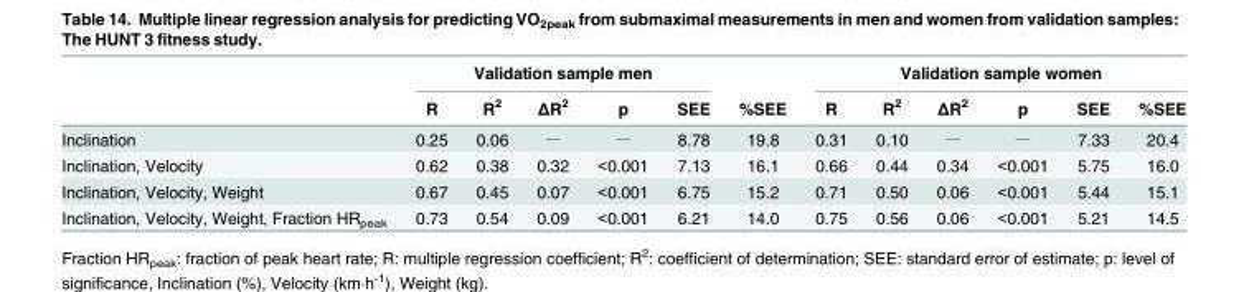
<table><thead><tr><td rowspan="2"></td><td colspan="5">Validation sample men</td><td rowspan="2">%SEE</td><td colspan="6">Validation sample women</td></tr><tr><td>R</td><td>R<sup>2</sup></td><td>ΔR<sup>2</sup></td><td>p</td><td>SEE</td><td>R</td><td>R<sup>2</sup></td><td>ΔR<sup>2</sup></td><td>p</td><td>SEE</td><td>%SEE</td></tr></thead><tbody><tr><td>Inclination</td><td>0.25</td><td>0.06</td><td><sup>__</sup></td><td><sup>__</sup></td><td>8.78</td><td>19.8</td><td>0.31</td><td>0.10</td><td><sup>__</sup></td><td><sup>__</sup></td><td>7.33</td><td>20.4</td></tr><tr><td>Inclination, Velocity</td><td>0.62</td><td>0.38</td><td>0.32</td><td>&lt;0.001</td><td>7.13</td><td>16.1</td><td>0.66</td><td>0.44</td><td>0.34</td><td>&lt;0.001</td><td>5.75</td><td>16.0</td></tr><tr><td>Inclination, Velocity, Weight</td><td>0.67</td><td>0.45</td><td>0.07</td><td>&lt;0.001</td><td>6.75</td><td>15.2</td><td>0.71</td><td>0.50</td><td>0.06</td><td>&lt;0.001</td><td>5.44</td><td>15.1</td></tr><tr><td>Inclination, Velocity, Weight, Fraction HR<sub>peak</sub></td><td>0.73</td><td>0.54</td><td>0.09</td><td>&lt;0.001</td><td>6.21</td><td>14.0</td><td>0.75</td><td>0.56</td><td>0.06</td><td>&lt;0.001</td><td>5.21</td><td>14.5</td></tr></tbody></table>